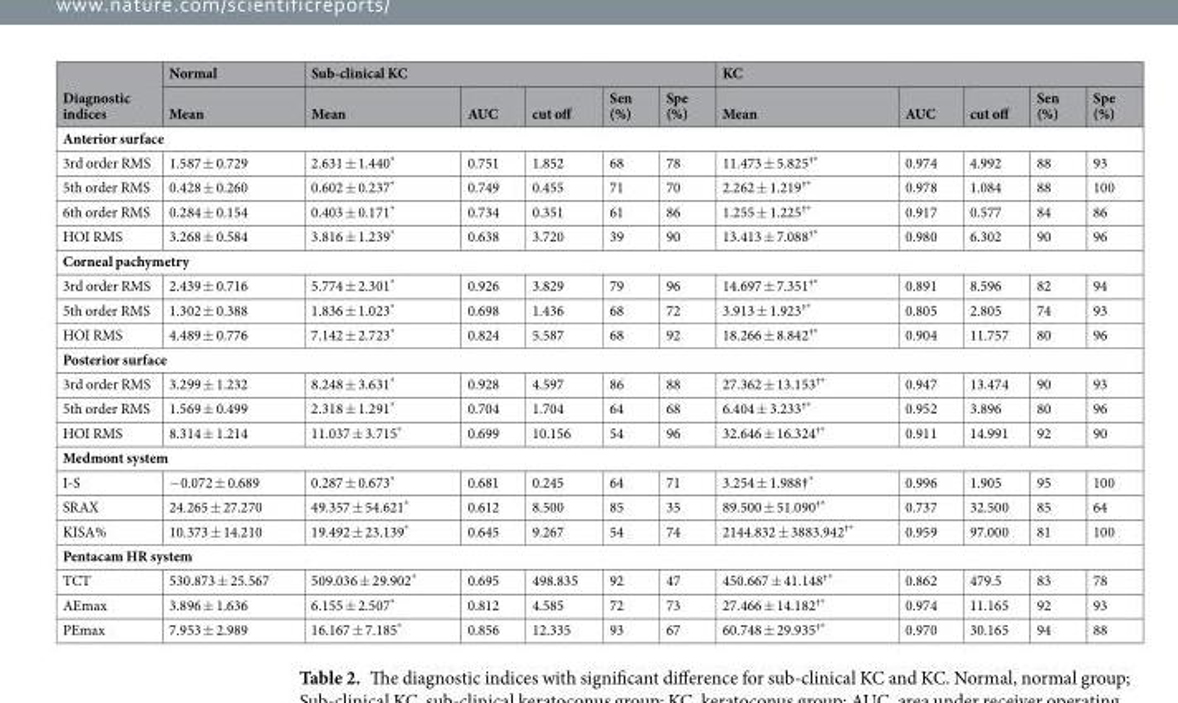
<table><thead><tr><td rowspan="2">Diagnostic indices</td><td rowspan="2">Normal Mean</td><td colspan="5">Sub-clinical KC</td><td colspan="5">KC</td></tr><tr><td>Mean</td><td>AUC</td><td>cut off</td><td>Sen (%)</td><td>Spe (%)</td><td>Mean</td><td>AUC</td><td>cut off</td><td>Sen (%)</td><td>Spe (%)</td></tr></thead><tbody><tr><td colspan="12">Anterior surface</td></tr><tr><td>3rd order RMS</td><td>1.587 ± 0.729</td><td>2.631 ± 1.440*</td><td>0.751</td><td>1.852</td><td>68</td><td>78</td><td>11.473 ± 5.825<sup>†*</sup></td><td>0.974</td><td>4.992</td><td>88</td><td>93</td></tr><tr><td>5th order RMS</td><td>0.428 ± 0.260</td><td>0.602 ± 0.237*</td><td>0.749</td><td>0.455</td><td>71</td><td>70</td><td>2.262 ± 1.219<sup>†*</sup></td><td>0.978</td><td>1.084</td><td>88</td><td>100</td></tr><tr><td>6th order RMS</td><td>0.284 ± 0.154</td><td>0.403 ± 0.171*</td><td>0.734</td><td>0.351</td><td>61</td><td>86</td><td>1.255 ± 1.225<sup>†*</sup></td><td>0.917</td><td>0.577</td><td>84</td><td>86</td></tr><tr><td>HOI RMS</td><td>3.268 ± 0.584</td><td>3.816 ± 1.239*</td><td>0.638</td><td>3.720</td><td>39</td><td>90</td><td>13.413 ± 7.088<sup>†*</sup></td><td>0.980</td><td>6.302</td><td>90</td><td>96</td></tr><tr><td colspan="12">Corneal pachymetry</td></tr><tr><td>3rd order RMS</td><td>2.439 ± 0.716</td><td>5.774 ± 2.301*</td><td>0.926</td><td>3.829</td><td>79</td><td>96</td><td>14.697 ± 7.351<sup>†*</sup></td><td>0.891</td><td>8.596</td><td>82</td><td>94</td></tr><tr><td>5th order RMS</td><td>1.302 ± 0.388</td><td>1.836 ± 1.023*</td><td>0.698</td><td>1.436</td><td>68</td><td>72</td><td>3.913 ± 1.923<sup>†*</sup></td><td>0.805</td><td>2.805</td><td>74</td><td>93</td></tr><tr><td>HOI RMS</td><td>4.489 ± 0.776</td><td>7.142 ± 2.723*</td><td>0.824</td><td>5.587</td><td>68</td><td>92</td><td>18.266 ± 8.842<sup>†*</sup></td><td>0.904</td><td>11.757</td><td>80</td><td>96</td></tr><tr><td colspan="12">Posterior surface</td></tr><tr><td>3rd order RMS</td><td>3.299 ± 1.232</td><td>8.248 ± 3.631*</td><td>0.928</td><td>4.597</td><td>86</td><td>88</td><td>27.362 ± 13.153<sup>†*</sup></td><td>0.947</td><td>13.474</td><td>90</td><td>93</td></tr><tr><td>5th order RMS</td><td>1.569 ± 0.499</td><td>2.318 ± 1.291*</td><td>0.704</td><td>1.704</td><td>64</td><td>68</td><td>6.404 ± 3.233<sup>†*</sup></td><td>0.952</td><td>3.896</td><td>80</td><td>96</td></tr><tr><td>HOI RMS</td><td>8.314 ± 1.214</td><td>11.037 ± 3.715*</td><td>0.699</td><td>10.156</td><td>54</td><td>96</td><td>32.646 ± 16.324<sup>†*</sup></td><td>0.911</td><td>14.991</td><td>92</td><td>90</td></tr><tr><td colspan="12">Medmont system</td></tr><tr><td>I-S</td><td>−0.072 ± 0.689</td><td>0.287 ± 0.673*</td><td>0.681</td><td>0.245</td><td>64</td><td>71</td><td>3.254 ± 1.988†*</td><td>0.996</td><td>1.905</td><td>95</td><td>100</td></tr><tr><td>SRAX</td><td>24.265 ± 27.270</td><td>49.357 ± 54.621*</td><td>0.612</td><td>8.500</td><td>85</td><td>35</td><td>89.500 ± 51.090<sup>†*</sup></td><td>0.737</td><td>32.500</td><td>85</td><td>64</td></tr><tr><td>KISA%</td><td>10.373 ± 14.210</td><td>19.492 ± 23.139*</td><td>0.645</td><td>9.267</td><td>54</td><td>74</td><td>2144.832 ± 3883.942<sup>†*</sup></td><td>0.959</td><td>97.000</td><td>81</td><td>100</td></tr><tr><td colspan="12">Pentacam HR system</td></tr><tr><td>TCT</td><td>530.873 ± 25.567</td><td>509.036 ± 29.902*</td><td>0.695</td><td>498.835</td><td>92</td><td>47</td><td>450.667 ± 41.148<sup>†*</sup></td><td>0.862</td><td>479.5</td><td>83</td><td>78</td></tr><tr><td>AEmax</td><td>3.896 ± 1.636</td><td>6.155 ± 2.507*</td><td>0.812</td><td>4.585</td><td>72</td><td>73</td><td>27.466 ± 14.182<sup>†*</sup></td><td>0.974</td><td>11.165</td><td>92</td><td>93</td></tr><tr><td>PEmax</td><td>7.953 ± 2.989</td><td>16.167 ± 7.185*</td><td>0.856</td><td>12.335</td><td>93</td><td>67</td><td>60.748 ± 29.935<sup>†*</sup></td><td>0.970</td><td>30.165</td><td>94</td><td>88</td></tr></tbody></table>